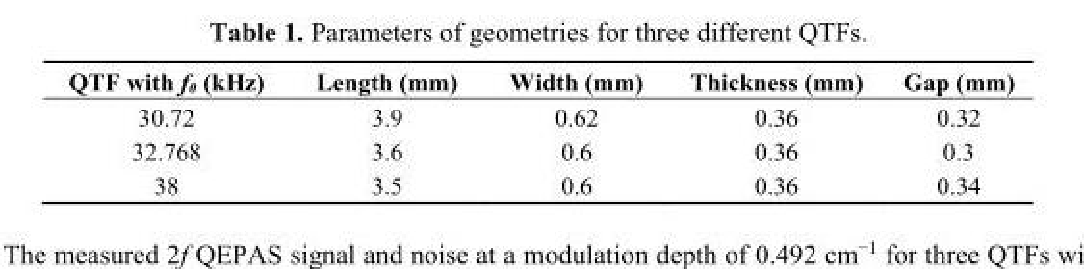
<table><thead><tr><td>QTF with f<sub>0</sub> (kHz)</td><td>Length (mm)</td><td>Width (mm)</td><td>Thickness (mm)</td><td>Gap (mm)</td></tr></thead><tbody><tr><td>30.72</td><td>3.9</td><td>0.62</td><td>0.36</td><td>0.32</td></tr><tr><td>32.768</td><td>3.6</td><td>0.6</td><td>0.36</td><td>0.3</td></tr><tr><td>38</td><td>3.5</td><td>0.6</td><td>0.36</td><td>0.34</td></tr></tbody></table>